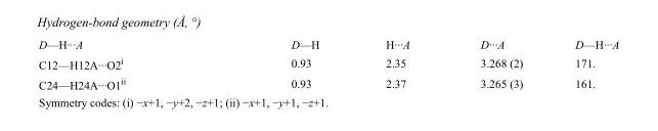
<table><tbody><tr><td>D—H···A</td><td>D—H</td><td>H···A</td><td>D···A</td><td>D—H···A</td></tr><tr><td>C12—H12A···O2<sup>i</sup></td><td>0.93</td><td>2.35</td><td>3.268 (2)</td><td>171.</td></tr><tr><td>C24—H24A···O1<sup>ii</sup></td><td>0.93</td><td>2.37</td><td>3.265 (3)</td><td>161.</td></tr></tbody></table>